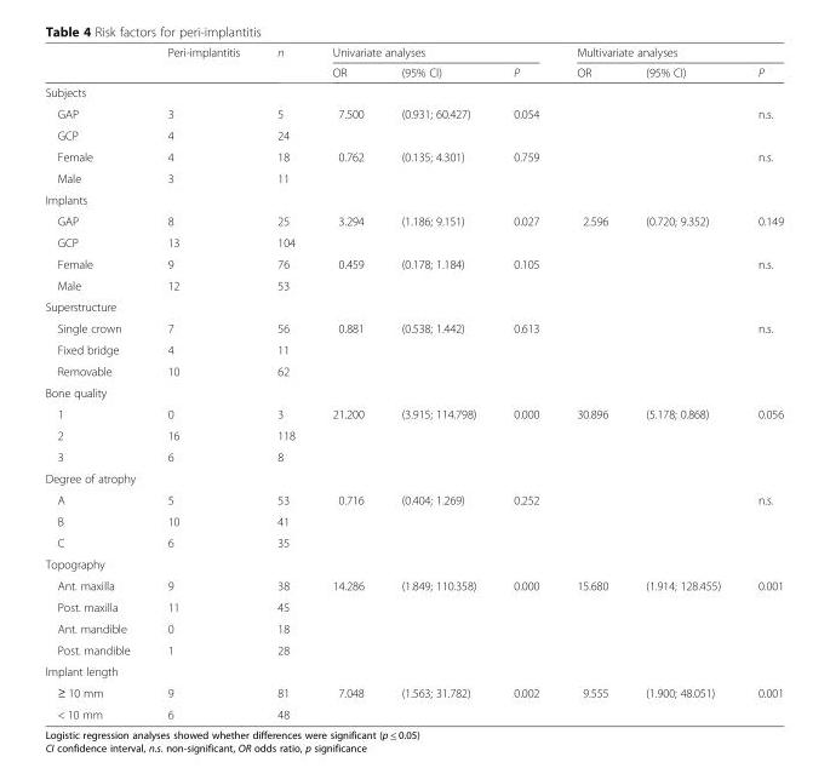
<table><thead><tr><td rowspan="2"></td><td rowspan="2">Peri-implantitis</td><td rowspan="2">n</td><td colspan="3">Univariate analyses</td><td colspan="3">Multivariate analyses</td></tr><tr><td>OR</td><td>(95% CI)</td><td>P</td><td>OR</td><td>(95% CI)</td><td>P</td></tr></thead><tbody><tr><td colspan="9">Subjects</td></tr><tr><td>GAP</td><td>3</td><td>5</td><td rowspan="2">7.500</td><td rowspan="2">(0.931; 60.427)</td><td rowspan="2">0.054</td><td></td><td></td><td rowspan="2">n.s.</td></tr><tr><td>GCP</td><td>4</td><td>24</td><td></td><td></td></tr><tr><td>Female</td><td>4</td><td>18</td><td rowspan="2">0.762</td><td rowspan="2">(0.135; 4.301)</td><td rowspan="2">0.759</td><td></td><td></td><td rowspan="2">n.s.</td></tr><tr><td>Male</td><td>3</td><td>11</td><td></td><td></td></tr><tr><td colspan="9">Implants</td></tr><tr><td>GAP</td><td>8</td><td>25</td><td rowspan="2">3.294</td><td rowspan="2">(1.186; 9.151)</td><td rowspan="2">0.027</td><td rowspan="2">2.596</td><td rowspan="2">(0.720; 9.352)</td><td rowspan="2">0.149</td></tr><tr><td>GCP</td><td>13</td><td>104</td></tr><tr><td>Female</td><td>9</td><td>76</td><td rowspan="2">0.459</td><td rowspan="2">(0.178; 1.184)</td><td rowspan="2">0.105</td><td rowspan="2"></td><td rowspan="2"></td><td rowspan="2">n.s.</td></tr><tr><td>Male</td><td>12</td><td>53</td></tr><tr><td colspan="9">Superstructure</td></tr><tr><td>Single crown</td><td>7</td><td>56</td><td rowspan="3">0.881</td><td rowspan="3">(0.538; 1.442)</td><td rowspan="3">0.613</td><td></td><td></td><td rowspan="3">n.s.</td></tr><tr><td>Fixed bridge</td><td>4</td><td>11</td><td></td><td></td></tr><tr><td>Removable</td><td>10</td><td>62</td><td></td><td></td></tr><tr><td colspan="9">Bone quality</td></tr><tr><td>1</td><td>0</td><td>3</td><td rowspan="3">21.200</td><td rowspan="3">(3.915; 114.798)</td><td rowspan="3">0.000</td><td rowspan="3">30.896</td><td rowspan="3">(5.178; 0.868)</td><td rowspan="3">0.056</td></tr><tr><td>2</td><td>16</td><td>118</td></tr><tr><td>3</td><td>6</td><td>8</td></tr><tr><td colspan="9">Degree of atrophy</td></tr><tr><td>A</td><td>5</td><td>53</td><td rowspan="3">0.716</td><td rowspan="3">(0.404; 1.269)</td><td rowspan="3">0.252</td><td></td><td></td><td rowspan="3">n.s.</td></tr><tr><td>B</td><td>10</td><td>41</td><td></td><td></td></tr><tr><td>C</td><td>6</td><td>35</td><td></td><td></td></tr><tr><td colspan="9">Topography</td></tr><tr><td>Ant. maxilla</td><td>9</td><td>38</td><td rowspan="4">14.286</td><td rowspan="4">(1.849; 110.358)</td><td rowspan="4">0.000</td><td rowspan="4">15.680</td><td rowspan="4">(1.914; 128.455)</td><td rowspan="4">0.001</td></tr><tr><td>Post. maxilla</td><td>11</td><td>45</td></tr><tr><td>Ant. mandible</td><td>0</td><td>18</td></tr><tr><td>Post. mandible</td><td>1</td><td>28</td></tr><tr><td colspan="9">Implant length</td></tr><tr><td>≥ 10 mm</td><td>9</td><td>81</td><td rowspan="2">7.048</td><td rowspan="2">(1.563; 31.782)</td><td rowspan="2">0.002</td><td rowspan="2">9.555</td><td rowspan="2">(1.900; 48.051)</td><td rowspan="2">0.001</td></tr><tr><td>&lt; 10 mm</td><td>6</td><td>48</td></tr></tbody></table>